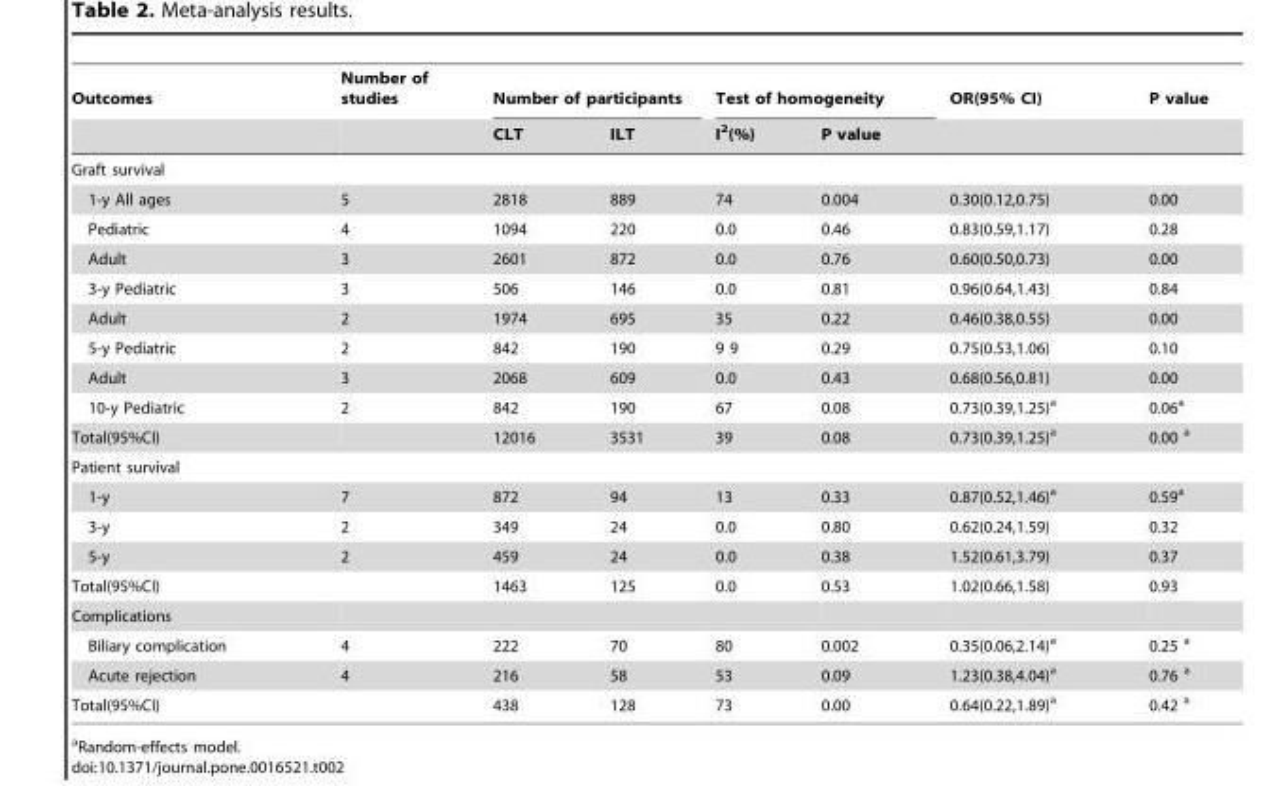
<table><thead><tr><td rowspan="2">Outcomes</td><td rowspan="2">Number of studies</td><td colspan="2">Number of participants</td><td colspan="2">Test of homogeneity</td><td rowspan="2">OR(95% CI)</td><td rowspan="2">P value</td></tr><tr><td>CLT</td><td>ILT</td><td>I<sup>2</sup>(%)</td><td>P value</td></tr></thead><tbody><tr><td colspan="8">Graft survival</td></tr><tr><td>1-y All ages</td><td>5</td><td>2818</td><td>889</td><td>74</td><td>0.004</td><td>0.30(0.12,0.75)</td><td>0.00</td></tr><tr><td>Pediatric</td><td>4</td><td>1094</td><td>220</td><td>0.0</td><td>0.46</td><td>0.83(0.59,1.17)</td><td>0.28</td></tr><tr><td>Adult</td><td>3</td><td>2601</td><td>872</td><td>0.0</td><td>0.76</td><td>0.60(0.50,0.73)</td><td>0.00</td></tr><tr><td>3-y Pediatric</td><td>3</td><td>506</td><td>146</td><td>0.0</td><td>0.81</td><td>0.96(0.64,1.43)</td><td>0.84</td></tr><tr><td>Adult</td><td>2</td><td>1974</td><td>695</td><td>35</td><td>0.22</td><td>0.46(0.38,0.55)</td><td>0.00</td></tr><tr><td>5-y Pediatric</td><td>2</td><td>842</td><td>190</td><td>9 9</td><td>0.29</td><td>0.75(0.53,1.06)</td><td>0.10</td></tr><tr><td>Adult</td><td>3</td><td>2068</td><td>609</td><td>0.0</td><td>0.43</td><td>0.68(0.56,0.81)</td><td>0.00</td></tr><tr><td>10-y Pediatric</td><td>2</td><td>842</td><td>190</td><td>67</td><td>0.08</td><td>0.73(0.39,1.25)<sup>a</sup></td><td>0.06<sup>a</sup></td></tr><tr><td>Total(95%CI)</td><td></td><td>12016</td><td>3531</td><td>39</td><td>0.08</td><td>0.73(0.39,1.25)<sup>a</sup></td><td>0.00 a</td></tr><tr><td colspan="8">Patient survival</td></tr><tr><td>1-y</td><td>7</td><td>872</td><td>94</td><td>13</td><td>0.33</td><td>0.87(0.52,1.46)<sup>a</sup></td><td>0.59<sup>a</sup></td></tr><tr><td>3-y</td><td>2</td><td>349</td><td>24</td><td>0.0</td><td>0.80</td><td>0.62(0.24,1.59)</td><td>0.32</td></tr><tr><td>5-y</td><td>2</td><td>459</td><td>24</td><td>0.0</td><td>0.38</td><td>1.52(0.61,3.79)</td><td>0.37</td></tr><tr><td>Total(95%CI)</td><td></td><td>1463</td><td>125</td><td>0.0</td><td>0.53</td><td>1.02(0.66,1.58)</td><td>0.93</td></tr><tr><td colspan="8">Complications</td></tr><tr><td>Biliary complication</td><td>4</td><td>222</td><td>70</td><td>80</td><td>0.002</td><td>0.35(0.06,2.14)<sup>a</sup></td><td>0.25 a</td></tr><tr><td>Acute rejection</td><td>4</td><td>216</td><td>58</td><td>53</td><td>0.09</td><td>1.23(0.38,4.04)<sup>a</sup></td><td>0.76 a</td></tr><tr><td>Total(95%CI)</td><td></td><td>438</td><td>128</td><td>73</td><td>0.00</td><td>0.64(0.22,1.89)<sup>a</sup></td><td>0.42 a</td></tr></tbody></table>